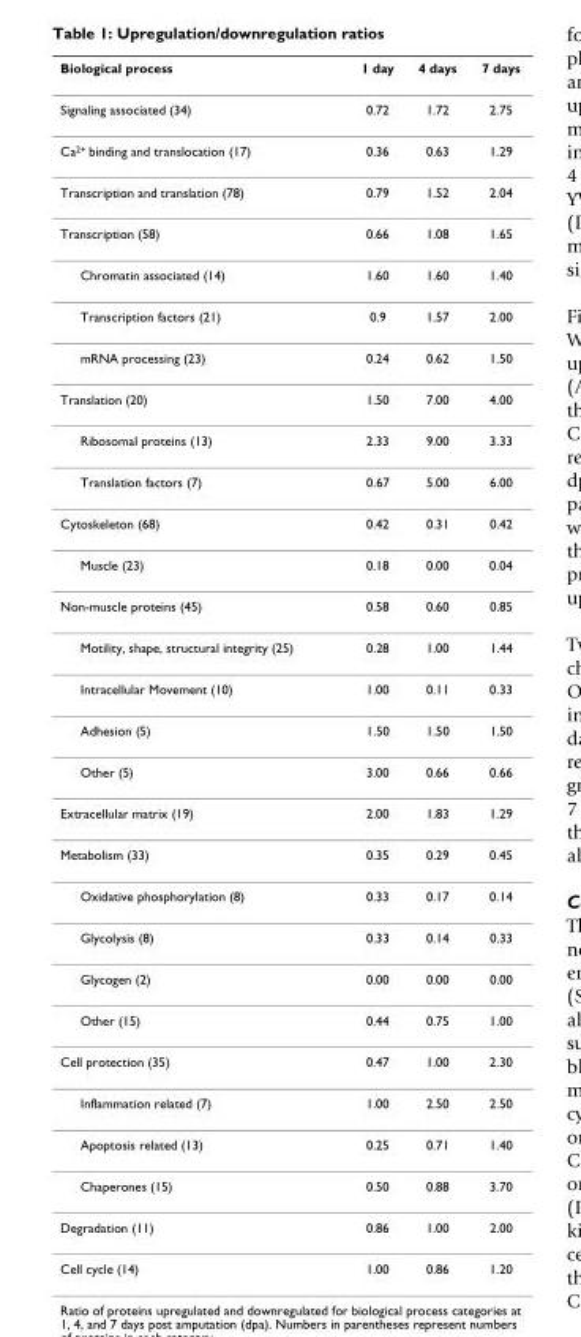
<table><thead><tr><td>Biological process</td><td>1 day</td><td>4 days</td><td>7 days</td></tr></thead><tbody><tr><td>Signaling associated (34)</td><td>0.72</td><td>1.72</td><td>2.75</td></tr><tr><td>Ca<sup>2+</sup> binding and translocation (17)</td><td>0.36</td><td>0.63</td><td>1.29</td></tr><tr><td>Transcription and translation (78)</td><td>0.79</td><td>1.52</td><td>2.04</td></tr><tr><td>Transcription (58)</td><td>0.66</td><td>1.08</td><td>1.65</td></tr><tr><td>Chromatin associated (14)</td><td>1.60</td><td>1.60</td><td>1.40</td></tr><tr><td>Transcription factors (21)</td><td>0.9</td><td>1.57</td><td>2.00</td></tr><tr><td>mRNA processing (23)</td><td>0.24</td><td>0.62</td><td>1.50</td></tr><tr><td>Translation (20)</td><td>1.50</td><td>7.00</td><td>4.00</td></tr><tr><td>Ribosomal proteins (13)</td><td>2.33</td><td>9.00</td><td>3.33</td></tr><tr><td>Translation factors (7)</td><td>0.67</td><td>5.00</td><td>6.00</td></tr><tr><td>Cytoskeleton (68)</td><td>0.42</td><td>0.31</td><td>0.42</td></tr><tr><td>Muscle (23)</td><td>0.18</td><td>0.00</td><td>0.04</td></tr><tr><td>Non-muscle proteins (45)</td><td>0.58</td><td>0.60</td><td>0.85</td></tr><tr><td>Motility, shape, structural integrity (25)</td><td>0.28</td><td>1.00</td><td>1.44</td></tr><tr><td>Intracellular Movement (10)</td><td>1.00</td><td>0.11</td><td>0.33</td></tr><tr><td>Adhesion (5)</td><td>1.50</td><td>1.50</td><td>1.50</td></tr><tr><td>Other (5)</td><td>3.00</td><td>0.66</td><td>0.66</td></tr><tr><td>Extracellular matrix (19)</td><td>2.00</td><td>1.83</td><td>1.29</td></tr><tr><td>Metabolism (33)</td><td>0.35</td><td>0.29</td><td>0.45</td></tr><tr><td>Oxidative phosphorylation (8)</td><td>0.33</td><td>0.17</td><td>0.14</td></tr><tr><td>Glycolysis (8)</td><td>0.33</td><td>0.14</td><td>0.33</td></tr><tr><td>Glycogen (2)</td><td>0.00</td><td>0.00</td><td>0.00</td></tr><tr><td>Other (15)</td><td>0.44</td><td>0.75</td><td>1.00</td></tr><tr><td>Cell protection (35)</td><td>0.47</td><td>1.00</td><td>2.30</td></tr><tr><td>Inflammation related (7)</td><td>1.00</td><td>2.50</td><td>2.50</td></tr><tr><td>Apoptosis related (13)</td><td>0.25</td><td>0.71</td><td>1.40</td></tr><tr><td>Chaperones (15)</td><td>0.50</td><td>0.88</td><td>3.70</td></tr><tr><td>Degradation (11)</td><td>0.86</td><td>1.00</td><td>2.00</td></tr><tr><td>Cell cycle (14)</td><td>1.00</td><td>0.86</td><td>1.20</td></tr></tbody></table>